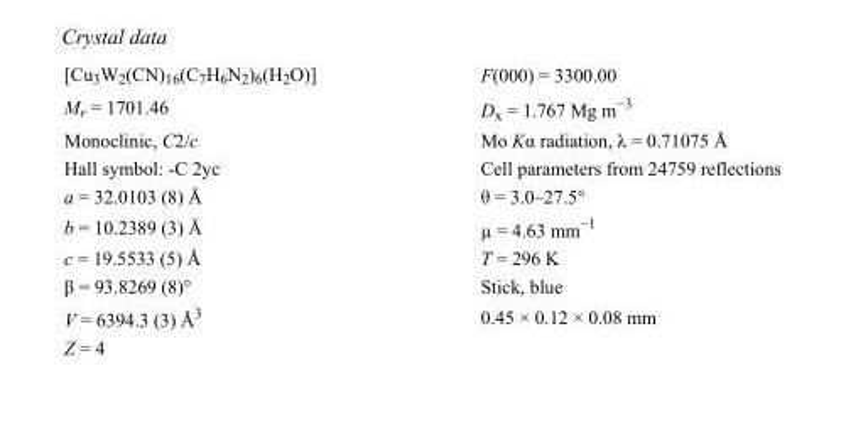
<table><tbody><tr><td>[Cu<sub>3</sub>W<sub>2</sub>(CN)<sub>16</sub>(C<sub>7</sub>H<sub>6</sub>N<sub>2</sub>)<sub>6</sub>(H<sub>2</sub>O)]</td><td>F(000) = 3300.00</td></tr><tr><td>M<sub>r</sub> = 1701.46</td><td>D<sub>x</sub> = 1.767 Mg m<sup>−3</sup></td></tr><tr><td>Monoclinic, C2/c</td><td>Mo Kα radiation, λ = 0.71075 Å</td></tr><tr><td>Hall symbol: -C 2yc</td><td>Cell parameters from 24759 reflections</td></tr><tr><td>a = 32.0103 (8) Å</td><td>θ = 3.0–27.5°</td></tr><tr><td>b = 10.2389 (3) Å</td><td>µ = 4.63 mm<sup>−1</sup></td></tr><tr><td>c = 19.5533 (5) Å</td><td>T = 296 K</td></tr><tr><td>β = 93.8269 (8)°</td><td>Stick, blue</td></tr><tr><td>V = 6394.3 (3) Å<sup>3</sup></td><td>0.45 × 0.12 × 0.08 mm</td></tr><tr><td>Z = 4</td><td></td></tr></tbody></table>